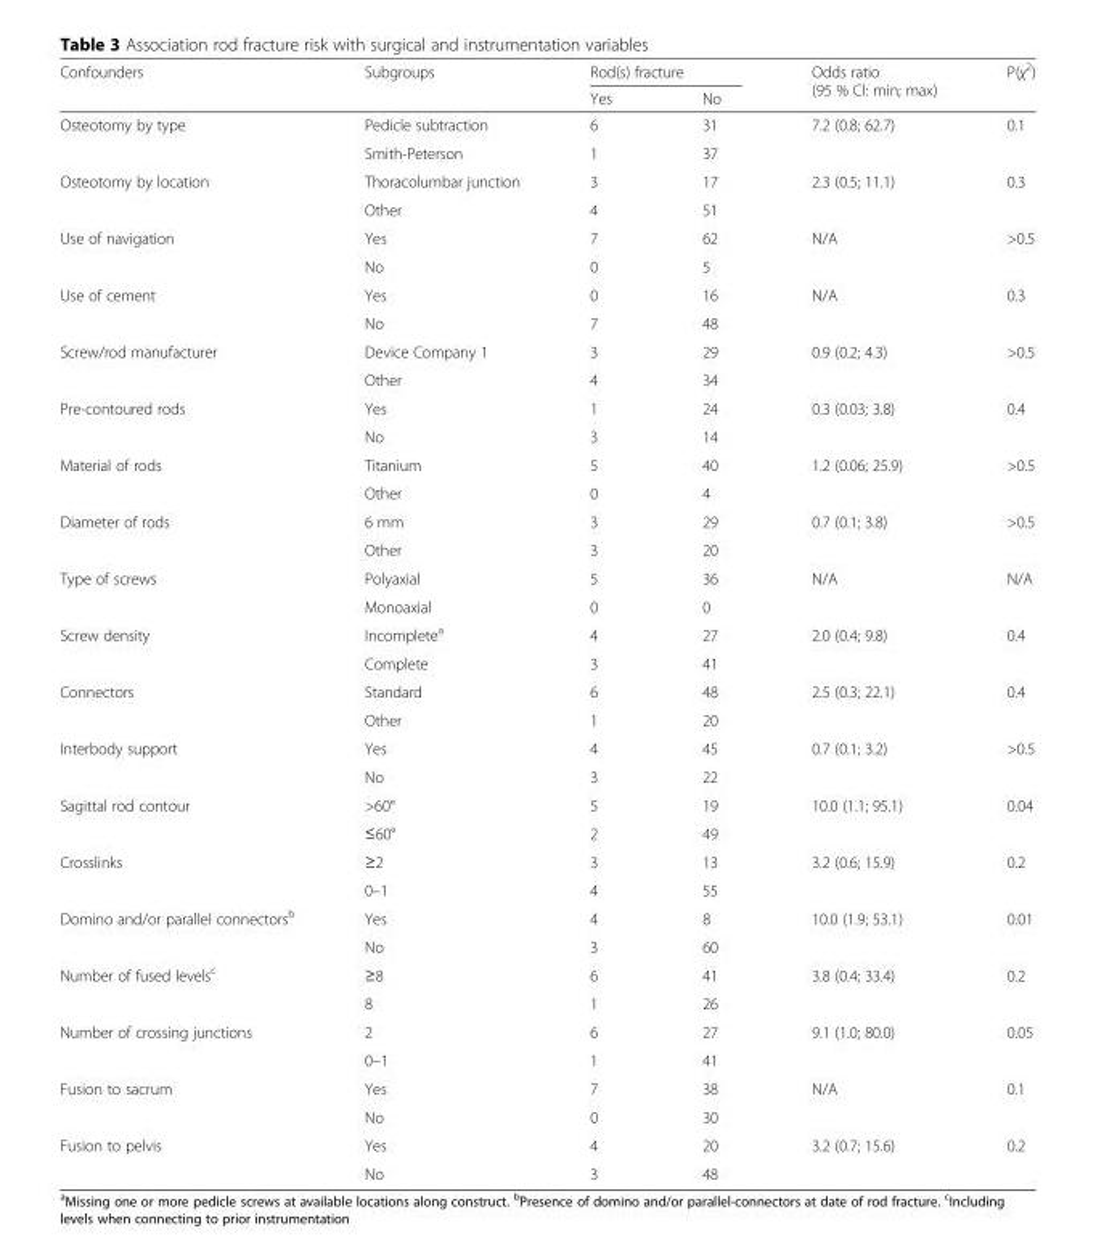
<table><thead><tr><td rowspan="2">Confounders</td><td rowspan="2">Subgroups</td><td colspan="2">Rod(s) fracture</td><td rowspan="2">Odds ratio (95 % Cl: min; max)</td><td rowspan="2">P(χ<sup>2</sup>)</td></tr><tr><td>Yes</td><td>No</td></tr></thead><tbody><tr><td rowspan="2">Osteotomy by type</td><td>Pedicle subtraction</td><td>6</td><td>31</td><td>7.2 (0.8; 62.7)</td><td>0.1</td></tr><tr><td>Smith-Peterson</td><td>1</td><td>37</td><td></td><td></td></tr><tr><td rowspan="2">Osteotomy by location</td><td>Thoracolumbar junction</td><td>3</td><td>17</td><td>2.3 (0.5; 11.1)</td><td>0.3</td></tr><tr><td>Other</td><td>4</td><td>51</td><td></td><td></td></tr><tr><td rowspan="2">Use of navigation</td><td>Yes</td><td>7</td><td>62</td><td>N/A</td><td>&gt;0.5</td></tr><tr><td>No</td><td>0</td><td>5</td><td></td><td></td></tr><tr><td rowspan="2">Use of cement</td><td>Yes</td><td>0</td><td>16</td><td>N/A</td><td>0.3</td></tr><tr><td>No</td><td>7</td><td>48</td><td></td><td></td></tr><tr><td rowspan="2">Screw/rod manufacturer</td><td>Device Company 1</td><td>3</td><td>29</td><td>0.9 (0.2; 4.3)</td><td>&gt;0.5</td></tr><tr><td>Other</td><td>4</td><td>34</td><td></td><td></td></tr><tr><td rowspan="2">Pre-contoured rods</td><td>Yes</td><td>1</td><td>24</td><td>0.3 (0.03; 3.8)</td><td>0.4</td></tr><tr><td>No</td><td>3</td><td>14</td><td></td><td></td></tr><tr><td rowspan="2">Material of rods</td><td>Titanium</td><td>5</td><td>40</td><td>1.2 (0.06; 25.9)</td><td>&gt;0.5</td></tr><tr><td>Other</td><td>0</td><td>4</td><td></td><td></td></tr><tr><td rowspan="2">Diameter of rods</td><td>6 mm</td><td>3</td><td>29</td><td>0.7 (0.1; 3.8)</td><td>&gt;0.5</td></tr><tr><td>Other</td><td>3</td><td>20</td><td></td><td></td></tr><tr><td rowspan="2">Type of screws</td><td>Polyaxial</td><td>5</td><td>36</td><td>N/A</td><td>N/A</td></tr><tr><td>Monoaxial</td><td>0</td><td>0</td><td></td><td></td></tr><tr><td rowspan="2">Screw density</td><td>Incomplete<sup>a</sup></td><td>4</td><td>27</td><td>2.0 (0.4; 9.8)</td><td>0.4</td></tr><tr><td>Complete</td><td>3</td><td>41</td><td></td><td></td></tr><tr><td rowspan="2">Connectors</td><td>Standard</td><td>6</td><td>48</td><td>2.5 (0.3; 22.1)</td><td>0.4</td></tr><tr><td>Other</td><td>1</td><td>20</td><td></td><td></td></tr><tr><td rowspan="2">Interbody support</td><td>Yes</td><td>4</td><td>45</td><td>0.7 (0.1; 3.2)</td><td>&gt;0.5</td></tr><tr><td>No</td><td>3</td><td>22</td><td></td><td></td></tr><tr><td rowspan="2">Sagittal rod contour</td><td>&gt;60°</td><td>5</td><td>19</td><td>10.0 (1.1; 95.1)</td><td>0.04</td></tr><tr><td>≤60°</td><td>2</td><td>49</td><td></td><td></td></tr><tr><td rowspan="2">Crosslinks</td><td>≥2</td><td>3</td><td>13</td><td>3.2 (0.6; 15.9)</td><td>0.2</td></tr><tr><td>0–1</td><td>4</td><td>55</td><td></td><td></td></tr><tr><td rowspan="2">Domino and/or parallel connectors<sup>b</sup></td><td>Yes</td><td>4</td><td>8</td><td>10.0 (1.9; 53.1)</td><td>0.01</td></tr><tr><td>No</td><td>3</td><td>60</td><td></td><td></td></tr><tr><td rowspan="2">Number of fused levels<sup>c</sup></td><td>≥8</td><td>6</td><td>41</td><td>3.8 (0.4; 33.4)</td><td>0.2</td></tr><tr><td>8</td><td>1</td><td>26</td><td></td><td></td></tr><tr><td rowspan="2">Number of crossing junctions</td><td>2</td><td>6</td><td>27</td><td>9.1 (1.0; 80.0)</td><td>0.05</td></tr><tr><td>0–1</td><td>1</td><td>41</td><td></td><td></td></tr><tr><td rowspan="2">Fusion to sacrum</td><td>Yes</td><td>7</td><td>38</td><td>N/A</td><td>0.1</td></tr><tr><td>No</td><td>0</td><td>30</td><td></td><td></td></tr><tr><td rowspan="2">Fusion to pelvis</td><td>Yes</td><td>4</td><td>20</td><td>3.2 (0.7; 15.6)</td><td>0.2</td></tr><tr><td>No</td><td>3</td><td>48</td><td></td><td></td></tr></tbody></table>